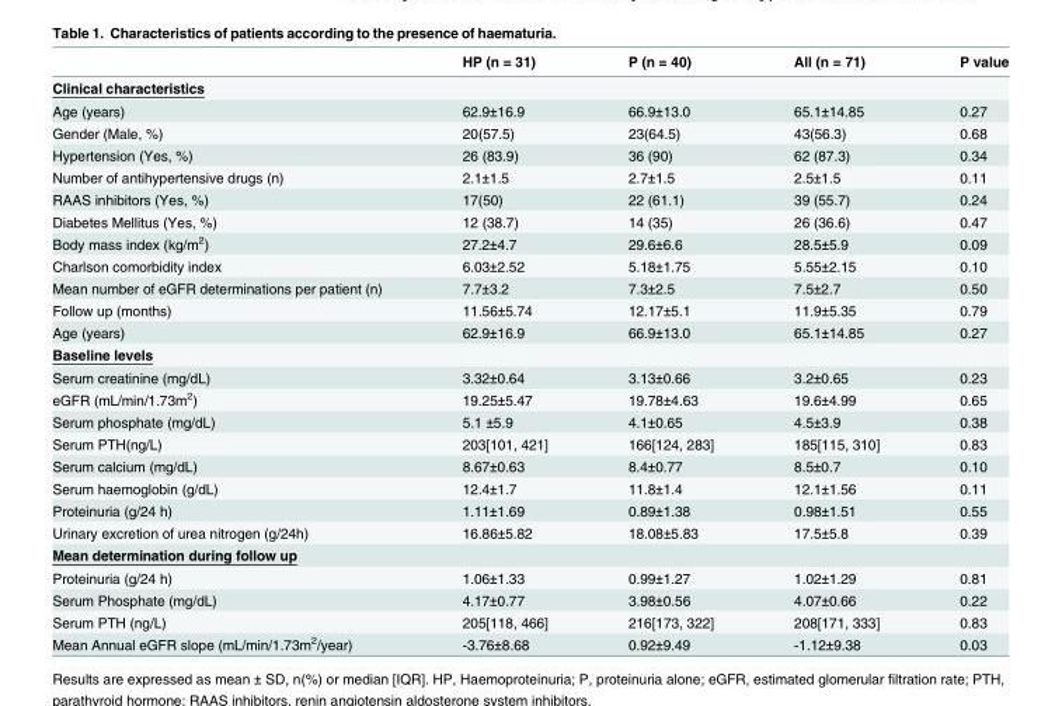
<table><thead><tr><td></td><td>HP (n = 31)</td><td>P (n = 40)</td><td>All (n = 71)</td><td>P value</td></tr></thead><tbody><tr><td colspan="5">Clinical characteristics</td></tr><tr><td>Age (years)</td><td>62.9±16.9</td><td>66.9±13.0</td><td>65.1±14.85</td><td>0.27</td></tr><tr><td>Gender (Male, %)</td><td>20(57.5)</td><td>23(64.5)</td><td>43(56.3)</td><td>0.68</td></tr><tr><td>Hypertension (Yes, %)</td><td>26 (83.9)</td><td>36 (90)</td><td>62 (87.3)</td><td>0.34</td></tr><tr><td>Number of antihypertensive drugs (n)</td><td>2.1±1.5</td><td>2.7±1.5</td><td>2.5±1.5</td><td>0.11</td></tr><tr><td>RAAS inhibitors (Yes, %)</td><td>17(50)</td><td>22 (61.1)</td><td>39 (55.7)</td><td>0.24</td></tr><tr><td>Diabetes Mellitus (Yes, %)</td><td>12 (38.7)</td><td>14 (35)</td><td>26 (36.6)</td><td>0.47</td></tr><tr><td>Body mass index (kg/m<sup>2</sup>)</td><td>27.2±4.7</td><td>29.6±6.6</td><td>28.5±5.9</td><td>0.09</td></tr><tr><td>Charlson comorbidity index</td><td>6.03±2.52</td><td>5.18±1.75</td><td>5.55±2.15</td><td>0.10</td></tr><tr><td>Mean number of eGFR determinations per patient (n)</td><td>7.7±3.2</td><td>7.3±2.5</td><td>7.5±2.7</td><td>0.50</td></tr><tr><td>Follow up (months)</td><td>11.56±5.74</td><td>12.17±5.1</td><td>11.9±5.35</td><td>0.79</td></tr><tr><td>Age (years)</td><td>62.9±16.9</td><td>66.9±13.0</td><td>65.1±14.85</td><td>0.27</td></tr><tr><td colspan="5">Baseline levels</td></tr><tr><td>Serum creatinine (mg/dL)</td><td>3.32±0.64</td><td>3.13±0.66</td><td>3.2±0.65</td><td>0.23</td></tr><tr><td>eGFR (mL/min/1.73m<sup>2</sup>)</td><td>19.25±5.47</td><td>19.78±4.63</td><td>19.6±4.99</td><td>0.65</td></tr><tr><td>Serum phosphate (mg/dL)</td><td>5.1 ±5.9</td><td>4.1±0.65</td><td>4.5±3.9</td><td>0.38</td></tr><tr><td>Serum PTH(ng/L)</td><td>203[101, 421]</td><td>166[124, 283]</td><td>185[115, 310]</td><td>0.83</td></tr><tr><td>Serum calcium (mg/dL)</td><td>8.67±0.63</td><td>8.4±0.77</td><td>8.5±0.7</td><td>0.10</td></tr><tr><td>Serum haemoglobin (g/dL)</td><td>12.4±1.7</td><td>11.8±1.4</td><td>12.1±1.56</td><td>0.11</td></tr><tr><td>Proteinuria (g/24 h)</td><td>1.11±1.69</td><td>0.89±1.38</td><td>0.98±1.51</td><td>0.55</td></tr><tr><td>Urinary excretion of urea nitrogen (g/24h)</td><td>16.86±5.82</td><td>18.08±5.83</td><td>17.5±5.8</td><td>0.39</td></tr><tr><td colspan="5">Mean determination during follow up</td></tr><tr><td>Proteinuria (g/24 h)</td><td>1.06±1.33</td><td>0.99±1.27</td><td>1.02±1.29</td><td>0.81</td></tr><tr><td>Serum Phosphate (mg/dL)</td><td>4.17±0.77</td><td>3.98±0.56</td><td>4.07±0.66</td><td>0.22</td></tr><tr><td>Serum PTH (ng/L)</td><td>205[118, 466]</td><td>216[173, 322]</td><td>208[171, 333]</td><td>0.83</td></tr><tr><td>Mean Annual eGFR slope (mL/min/1.73m<sup>2</sup>/year)</td><td>-3.76±8.68</td><td>0.92±9.49</td><td>-1.12±9.38</td><td>0.03</td></tr></tbody></table>